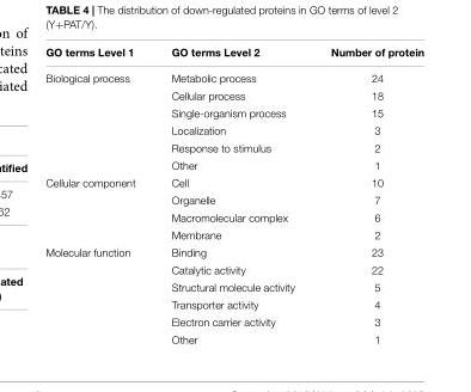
<table><thead><tr><td>GO terms Level 1</td><td>GO terms Level 2</td><td>Number of protein</td></tr></thead><tbody><tr><td rowspan="6">Biological process</td><td>Metabolic process</td><td>24</td></tr><tr><td>Cellular process</td><td>18</td></tr><tr><td>Single-organism process</td><td>15</td></tr><tr><td>Localization</td><td>3</td></tr><tr><td>Response to stimulus</td><td>2</td></tr><tr><td>Other</td><td>1</td></tr><tr><td rowspan="4">Cellular component</td><td>Cell</td><td>10</td></tr><tr><td>Organelle</td><td>7</td></tr><tr><td>Macromolecular complex</td><td>6</td></tr><tr><td>Membrane</td><td>2</td></tr><tr><td rowspan="6">Molecular function</td><td>Binding</td><td>23</td></tr><tr><td>Catalytic activity</td><td>22</td></tr><tr><td>Structural molecule activity</td><td>5</td></tr><tr><td>Transporter activity</td><td>4</td></tr><tr><td>Electron carrier activity</td><td>3</td></tr><tr><td>Other</td><td>1</td></tr></tbody></table>